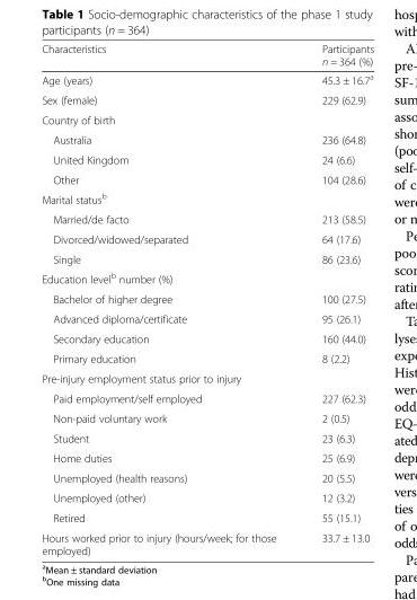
<table><thead><tr><td>Characteristics</td><td>Participants n = 364 (%)</td></tr></thead><tbody><tr><td>Age (years)</td><td>45.3 ± 16.7<sup>a</sup></td></tr><tr><td>Sex (female)</td><td>229 (62.9)</td></tr><tr><td colspan="2">Country of birth</td></tr><tr><td>Australia</td><td>236 (64.8)</td></tr><tr><td>United Kingdom</td><td>24 (6.6)</td></tr><tr><td>Other</td><td>104 (28.6)</td></tr><tr><td colspan="2">Marital status<sup>b</sup></td></tr><tr><td>Married/de facto</td><td>213 (58.5)</td></tr><tr><td>Divorced/widowed/separated</td><td>64 (17.6)</td></tr><tr><td>Single</td><td>86 (23.6)</td></tr><tr><td colspan="2">Education level<sup>b</sup> number (%)</td></tr><tr><td>Bachelor of higher degree</td><td>100 (27.5)</td></tr><tr><td>Advanced diploma/certificate</td><td>95 (26.1)</td></tr><tr><td>Secondary education</td><td>160 (44.0)</td></tr><tr><td>Primary education</td><td>8 (2.2)</td></tr><tr><td colspan="2">Pre-injury employment status prior to injury</td></tr><tr><td>Paid employment/self employed</td><td>227 (62.3)</td></tr><tr><td>Non-paid voluntary work</td><td>2 (0.5)</td></tr><tr><td>Student</td><td>23 (6.3)</td></tr><tr><td>Home duties</td><td>25 (6.9)</td></tr><tr><td>Unemployed (health reasons)</td><td>20 (5.5)</td></tr><tr><td>Unemployed (other)</td><td>12 (3.2)</td></tr><tr><td>Retired</td><td>55 (15.1)</td></tr><tr><td>Hours worked prior to injury (hours/week; for those employed)</td><td>33.7 ± 13.0</td></tr></tbody></table>